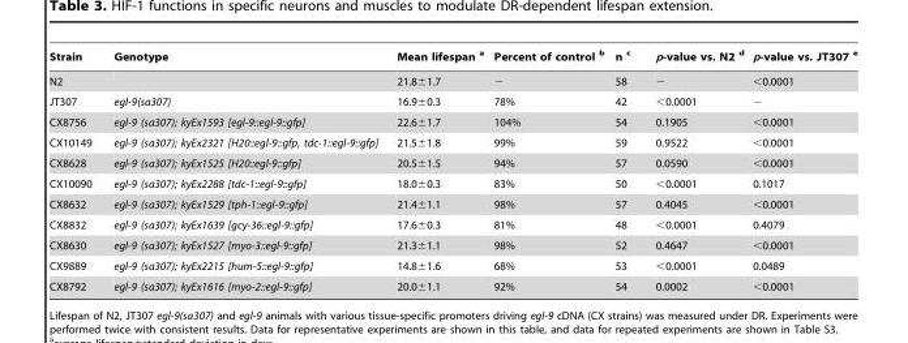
<table><thead><tr><td>Strain</td><td>Genotype</td><td>Mean lifespan a</td><td>Percent of control b</td><td>n c</td><td>p-value vs. N2 d</td><td>p-value vs. JT307 e</td></tr></thead><tbody><tr><td>N2</td><td></td><td>21.8±1.7</td><td>−</td><td>58</td><td>−</td><td>&lt;0.0001</td></tr><tr><td>JT307</td><td>egl-9(sa307)</td><td>16.9±0.3</td><td>78%</td><td>42</td><td>&lt;0.0001</td><td>−</td></tr><tr><td>CX8756</td><td>egl-9 (sa307); kyEx1593 [egl-9::egl-9::gfp]</td><td>22.6±1.7</td><td>104%</td><td>54</td><td>0.1905</td><td>&lt;0.0001</td></tr><tr><td>CX10149</td><td>egl-9 (sa307); kyEx2321 [H20::egl-9::gfp, tdc-1::egl-9::gfp]</td><td>21.5±1.8</td><td>99%</td><td>59</td><td>0.9522</td><td>&lt;0.0001</td></tr><tr><td>CX8628</td><td>egl-9 (sa307); kyEx1525 [H20::egl-9::gfp]</td><td>20.5±1.5</td><td>94%</td><td>57</td><td>0.0590</td><td>&lt;0.0001</td></tr><tr><td>CX10090</td><td>egl-9 (sa307); kyEx2288 [tdc-1::egl-9::gfp]</td><td>18.0±0.3</td><td>83%</td><td>50</td><td>&lt;0.0001</td><td>0.1017</td></tr><tr><td>CX8632</td><td>egl-9 (sa307); kyEx1529 [tph-1::egl-9::gfp]</td><td>21.4±1.1</td><td>98%</td><td>57</td><td>0.4045</td><td>&lt;0.0001</td></tr><tr><td>CX8832</td><td>egl-9 (sa307); kyEx1639 [gcy-36::egl-9::gfp]</td><td>17.6±0.3</td><td>81%</td><td>48</td><td>&lt;0.0001</td><td>0.4079</td></tr><tr><td>CX8630</td><td>egl-9 (sa307); kyEx1527 [myo-3::egl-9::gfp]</td><td>21.3±1.1</td><td>98%</td><td>52</td><td>0.4647</td><td>&lt;0.0001</td></tr><tr><td>CX9889</td><td>egl-9 (sa307); kyEx2215 [hum-5::egl-9::gfp]</td><td>14.8±1.6</td><td>68%</td><td>53</td><td>&lt;0.0001</td><td>0.0489</td></tr><tr><td>CX8792</td><td>egl-9 (sa307); kyEx1616 [myo-2::egl-9::gfp]</td><td>20.0±1.1</td><td>92%</td><td>54</td><td>0.0002</td><td>&lt;0.0001</td></tr></tbody></table>